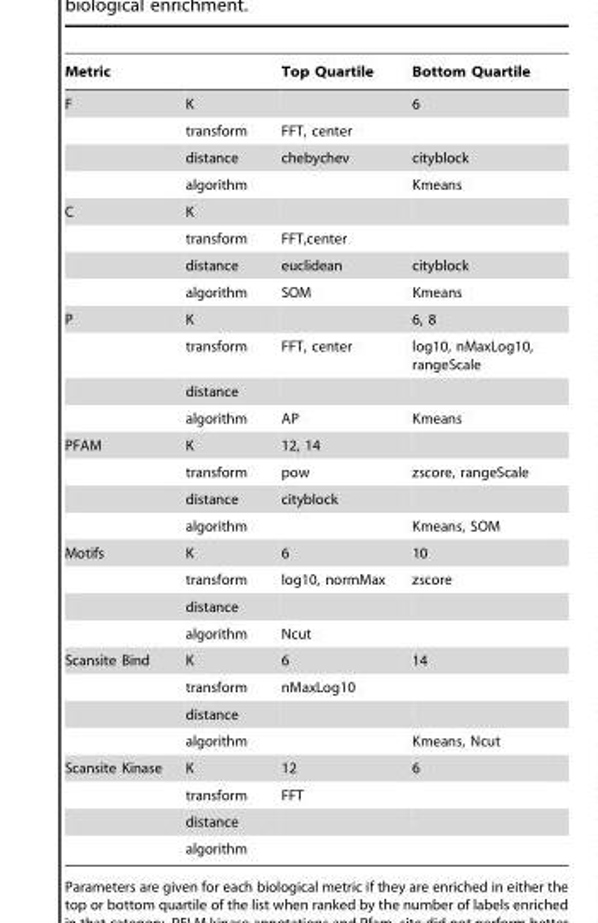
<table><thead><tr><td>Metric</td><td></td><td>Top Quartile</td><td>Bottom Quartile</td></tr></thead><tbody><tr><td rowspan="4">F</td><td>K</td><td></td><td>6</td></tr><tr><td>transform</td><td>FFT, center</td><td></td></tr><tr><td>distance</td><td>chebychev</td><td>cityblock</td></tr><tr><td>algorithm</td><td></td><td>Kmeans</td></tr><tr><td rowspan="4">C</td><td>K</td><td></td><td></td></tr><tr><td>transform</td><td>FFT,center</td><td></td></tr><tr><td>distance</td><td>euclidean</td><td>cityblock</td></tr><tr><td>algorithm</td><td>SOM</td><td>Kmeans</td></tr><tr><td rowspan="4">P</td><td>K</td><td></td><td>6, 8</td></tr><tr><td>transform</td><td>FFT, center</td><td>log10, nMaxLog10, rangeScale</td></tr><tr><td>distance</td><td></td><td></td></tr><tr><td>algorithm</td><td>AP</td><td>Kmeans</td></tr><tr><td rowspan="4">PFAM</td><td>K</td><td>12, 14</td><td></td></tr><tr><td>transform</td><td>pow</td><td>zscore, rangeScale</td></tr><tr><td>distance</td><td>cityblock</td><td></td></tr><tr><td>algorithm</td><td></td><td>Kmeans, SOM</td></tr><tr><td rowspan="4">Motifs</td><td>K</td><td>6</td><td>10</td></tr><tr><td>transform</td><td>log10, normMax</td><td>zscore</td></tr><tr><td>distance</td><td></td><td></td></tr><tr><td>algorithm</td><td>Ncut</td><td></td></tr><tr><td rowspan="4">Scansite Bind</td><td>K</td><td>6</td><td>14</td></tr><tr><td>transform</td><td>nMaxLog10</td><td></td></tr><tr><td>distance</td><td></td><td></td></tr><tr><td>algorithm</td><td></td><td>Kmeans, Ncut</td></tr><tr><td rowspan="4">Scansite Kinase</td><td>K</td><td>12</td><td>6</td></tr><tr><td>transform</td><td>FFT</td><td></td></tr><tr><td>distance</td><td></td><td></td></tr><tr><td>algorithm</td><td></td><td></td></tr></tbody></table>